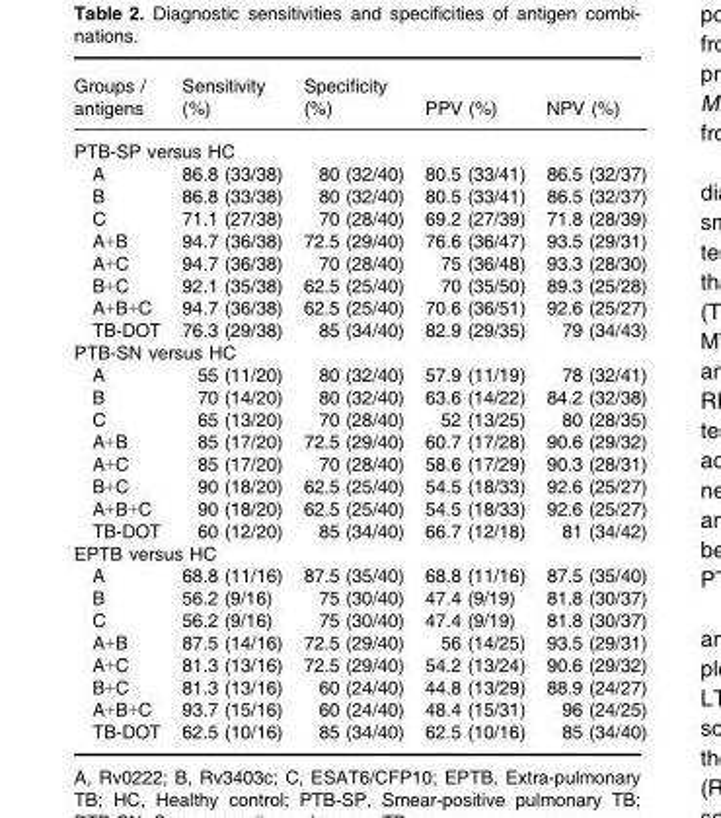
<table><thead><tr><td>Groups / antigens</td><td>Sensitivity (%)</td><td>Specificity (%)</td><td>PPV (%)</td><td>NPV (%)</td></tr></thead><tbody><tr><td colspan="5">PTB-SP versus HC</td></tr><tr><td>A</td><td>86.8 (33/38)</td><td>80 (32/40)</td><td>80.5 (33/41)</td><td>86.5 (32/37)</td></tr><tr><td>B</td><td>86.8 (33/38)</td><td>80 (32/40)</td><td>80.5 (33/41)</td><td>86.5 (32/37)</td></tr><tr><td>C</td><td>71.1 (27/38)</td><td>70 (28/40)</td><td>69.2 (27/39)</td><td>71.8 (28/39)</td></tr><tr><td>A+B</td><td>94.7 (36/38)</td><td>72.5 (29/40)</td><td>76.6 (36/47)</td><td>93.5 (29/31)</td></tr><tr><td>A+C</td><td>94.7 (36/38)</td><td>70 (28/40)</td><td>75 (36/48)</td><td>93.3 (28/30)</td></tr><tr><td>B+C</td><td>92.1 (35/38)</td><td>62.5 (25/40)</td><td>70 (35/50)</td><td>89.3 (25/28)</td></tr><tr><td>A+B+C</td><td>94.7 (36/38)</td><td>62.5 (25/40)</td><td>70.6 (36/51)</td><td>92.6 (25/27)</td></tr><tr><td>TB-DOT</td><td>76.3 (29/38)</td><td>85 (34/40)</td><td>82.9 (29/35)</td><td>79 (34/43)</td></tr><tr><td colspan="5">PTB-SN versus HC</td></tr><tr><td>A</td><td>55 (11/20)</td><td>80 (32/40)</td><td>57.9 (11/19)</td><td>78 (32/41)</td></tr><tr><td>B</td><td>70 (14/20)</td><td>80 (32/40)</td><td>63.6 (14/22)</td><td>84.2 (32/38)</td></tr><tr><td>C</td><td>65 (13/20)</td><td>70 (28/40)</td><td>52 (13/25)</td><td>80 (28/35)</td></tr><tr><td>A+B</td><td>85 (17/20)</td><td>72.5 (29/40)</td><td>60.7 (17/28)</td><td>90.6 (29/32)</td></tr><tr><td>A+C</td><td>85 (17/20)</td><td>70 (28/40)</td><td>58.6 (17/29)</td><td>90.3 (28/31)</td></tr><tr><td>B+C</td><td>90 (18/20)</td><td>62.5 (25/40)</td><td>54.5 (18/33)</td><td>92.6 (25/27)</td></tr><tr><td>A+B+C</td><td>90 (18/20)</td><td>62.5 (25/40)</td><td>54.5 (18/33)</td><td>92.6 (25/27)</td></tr><tr><td>TB-DOT</td><td>60 (12/20)</td><td>85 (34/40)</td><td>66.7 (12/18)</td><td>81 (34/42)</td></tr><tr><td colspan="5">EPTB versus HC</td></tr><tr><td>A</td><td>68.8 (11/16)</td><td>87.5 (35/40)</td><td>68.8 (11/16)</td><td>87.5 (35/40)</td></tr><tr><td>B</td><td>56.2 (9/16)</td><td>75 (30/40)</td><td>47.4 (9/19)</td><td>81.8 (30/37)</td></tr><tr><td>C</td><td>56.2 (9/16)</td><td>75 (30/40)</td><td>47.4 (9/19)</td><td>81.8 (30/37)</td></tr><tr><td>A+B</td><td>87.5 (14/16)</td><td>72.5 (29/40)</td><td>56 (14/25)</td><td>93.5 (29/31)</td></tr><tr><td>A+C</td><td>81.3 (13/16)</td><td>72.5 (29/40)</td><td>54.2 (13/24)</td><td>90.6 (29/32)</td></tr><tr><td>B+C</td><td>81.3 (13/16)</td><td>60 (24/40)</td><td>44.8 (13/29)</td><td>88.9 (24/27)</td></tr><tr><td>A+B+C</td><td>93.7 (15/16)</td><td>60 (24/40)</td><td>48.4 (15/31)</td><td>96 (24/25)</td></tr><tr><td>TB-DOT</td><td>62.5 (10/16)</td><td>85 (34/40)</td><td>62.5 (10/16)</td><td>85 (34/40)</td></tr></tbody></table>